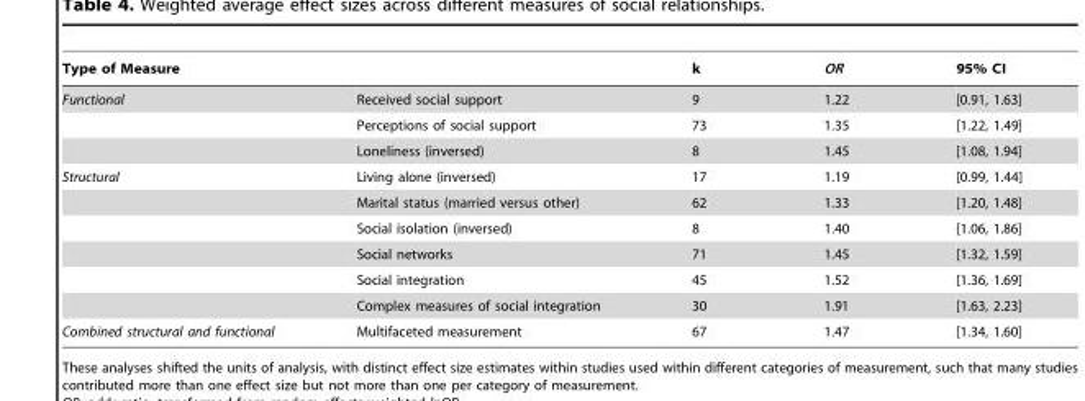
<table><thead><tr><td>Type of Measure</td><td></td><td>k</td><td>OR</td><td>95% CI</td></tr></thead><tbody><tr><td rowspan="3">Functional</td><td>Received social support</td><td>9</td><td>1.22</td><td>[0.91, 1.63]</td></tr><tr><td>Perceptions of social support</td><td>73</td><td>1.35</td><td>[1.22, 1.49]</td></tr><tr><td>Loneliness (inversed)</td><td>8</td><td>1.45</td><td>[1.08, 1.94]</td></tr><tr><td rowspan="6">Structural</td><td>Living alone (inversed)</td><td>17</td><td>1.19</td><td>[0.99, 1.44]</td></tr><tr><td>Marital status (married versus other)</td><td>62</td><td>1.33</td><td>[1.20, 1.48]</td></tr><tr><td>Social isolation (inversed)</td><td>8</td><td>1.40</td><td>[1.06, 1.86]</td></tr><tr><td>Social networks</td><td>71</td><td>1.45</td><td>[1.32, 1.59]</td></tr><tr><td>Social integration</td><td>45</td><td>1.52</td><td>[1.36, 1.69]</td></tr><tr><td>Complex measures of social integration</td><td>30</td><td>1.91</td><td>[1.63, 2.23]</td></tr><tr><td>Combined structural and functional</td><td>Multifaceted measurement</td><td>67</td><td>1.47</td><td>[1.34, 1.60]</td></tr></tbody></table>